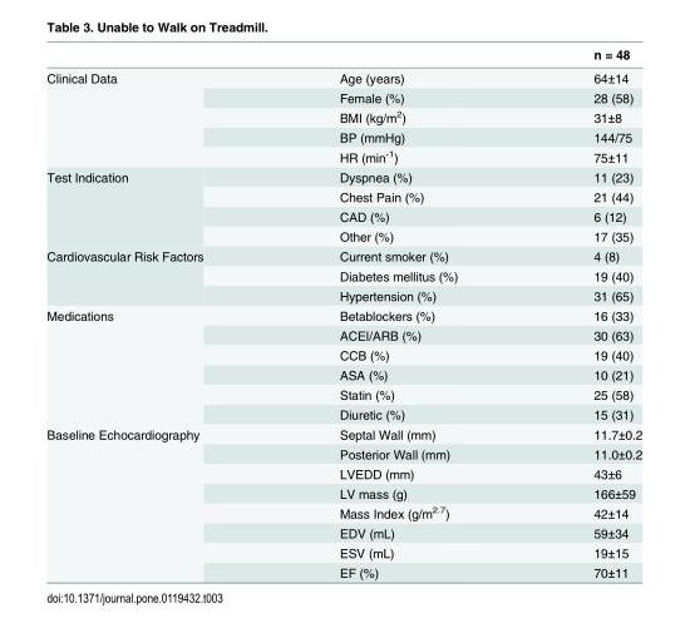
<table><thead><tr><td></td><td></td><td>n = 48</td></tr></thead><tbody><tr><td rowspan="5">Clinical Data</td><td>Age (years)</td><td>64±14</td></tr><tr><td>Female (%)</td><td>28 (58)</td></tr><tr><td>BMI (kg/m<sup>2</sup>)</td><td>31±8</td></tr><tr><td>BP (mmHg)</td><td>144/75</td></tr><tr><td>HR (min<sup>-1</sup>)</td><td>75±11</td></tr><tr><td rowspan="4">Test Indication</td><td>Dyspnea (%)</td><td>11 (23)</td></tr><tr><td>Chest Pain (%)</td><td>21 (44)</td></tr><tr><td>CAD (%)</td><td>6 (12)</td></tr><tr><td>Other (%)</td><td>17 (35)</td></tr><tr><td rowspan="3">Cardiovascular Risk Factors</td><td>Current smoker (%)</td><td>4 (8)</td></tr><tr><td>Diabetes mellitus (%)</td><td>19 (40)</td></tr><tr><td>Hypertension (%)</td><td>31 (65)</td></tr><tr><td rowspan="6">Medications</td><td>Betablockers (%)</td><td>16 (33)</td></tr><tr><td>ACEI/ARB (%)</td><td>30 (63)</td></tr><tr><td>CCB (%)</td><td>19 (40)</td></tr><tr><td>ASA (%)</td><td>10 (21)</td></tr><tr><td>Statin (%)</td><td>25 (58)</td></tr><tr><td>Diuretic (%)</td><td>15 (31)</td></tr><tr><td rowspan="8">Baseline Echocardiography</td><td>Septal Wall (mm)</td><td>11.7±0.2</td></tr><tr><td>Posterior Wall (mm)</td><td>11.0±0.2</td></tr><tr><td>LVEDD (mm)</td><td>43±6</td></tr><tr><td>LV mass (g)</td><td>166±59</td></tr><tr><td>Mass Index (g/m<sup>2.7</sup>)</td><td>42±14</td></tr><tr><td>EDV (mL)</td><td>59±34</td></tr><tr><td>ESV (mL)</td><td>19±15</td></tr><tr><td>EF (%)</td><td>70±11</td></tr></tbody></table>